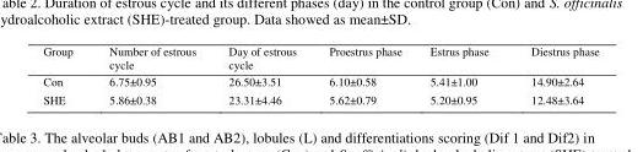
<table><thead><tr><td>Group</td><td>Number of estrous cycle</td><td>Day of estrous cycle</td><td>Proestrus phase</td><td>Estrus phase</td><td>Diestrus phase</td></tr></thead><tbody><tr><td>Con</td><td>6.75±0.95</td><td>26.50±3.51</td><td>6.10±0.58</td><td>5.41±1.00</td><td>14.90±2.64</td></tr><tr><td>SHE</td><td>5.86±0.38</td><td>23.31±4.46</td><td>5.62±0.79</td><td>5.20±0.95</td><td>12.48±3.64</td></tr></tbody></table>